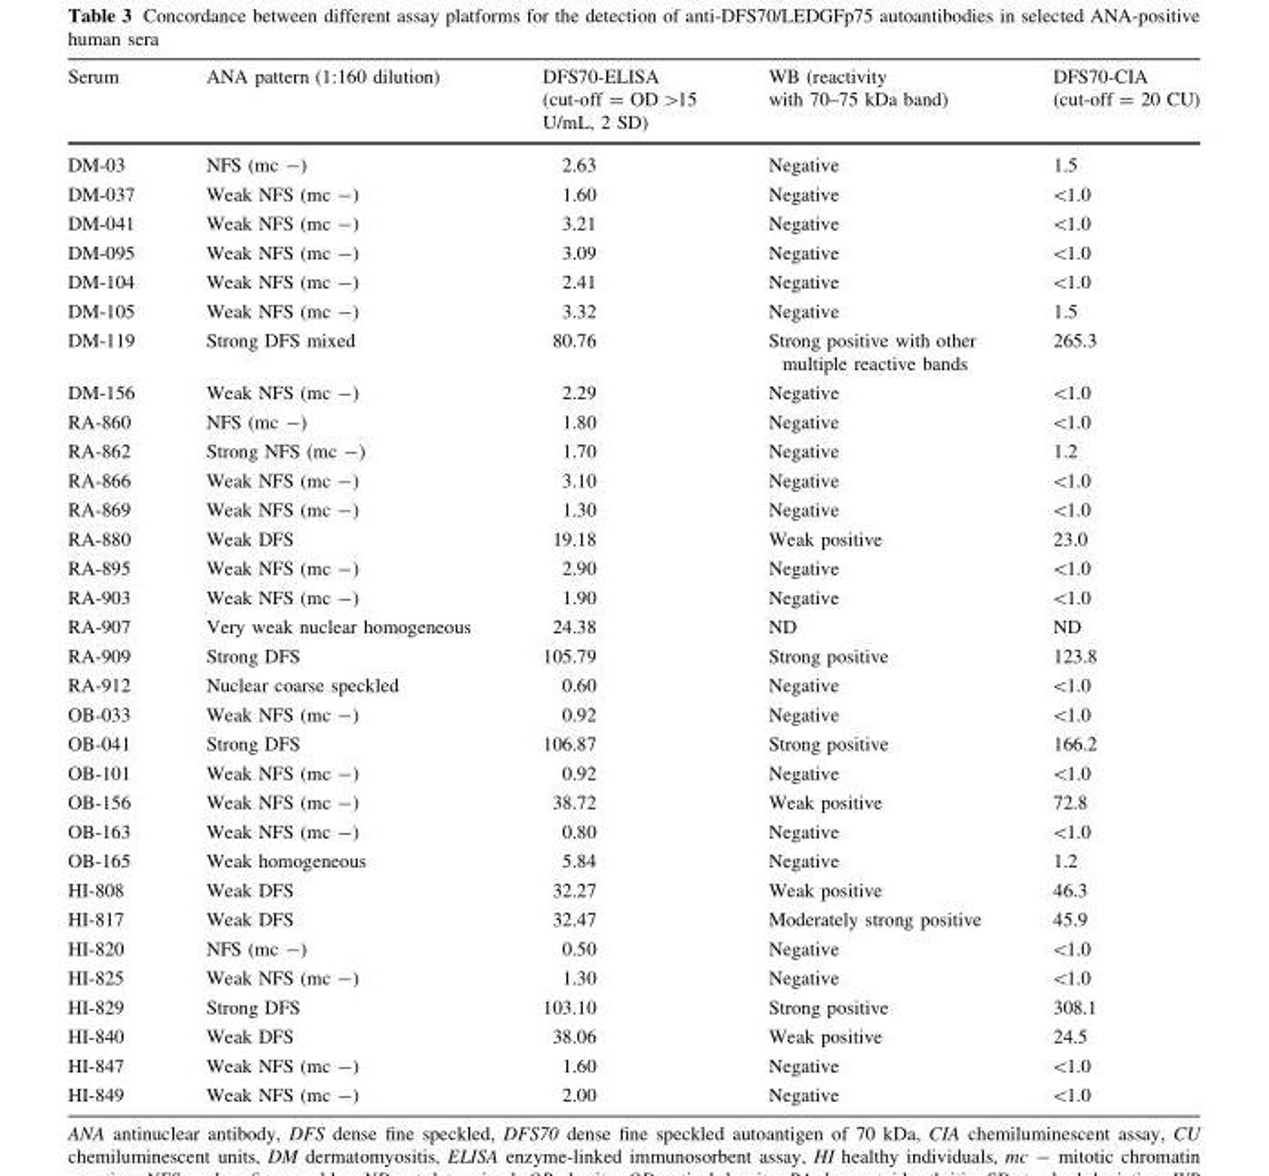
<table><thead><tr><td>Serum</td><td>ANA pattern (1:160 dilution)</td><td>DFS70-ELISA (cut-off = OD &gt;15 U/mL, 2 SD)</td><td>WB (reactivity with 70–75 kDa band)</td><td>DFS70-CIA (cut-off = 20 CU)</td></tr></thead><tbody><tr><td>DM-03</td><td>NFS (mc -)</td><td>2.63</td><td>Negative</td><td>1.5</td></tr><tr><td>DM-037</td><td>Weak NFS (mc -)</td><td>1.60</td><td>Negative</td><td>&lt;1.0</td></tr><tr><td>DM-041</td><td>Weak NFS (mc -)</td><td>3.21</td><td>Negative</td><td>&lt;1.0</td></tr><tr><td>DM-095</td><td>Weak NFS (mc -)</td><td>3.09</td><td>Negative</td><td>&lt;1.0</td></tr><tr><td>DM-104</td><td>Weak NFS (mc -)</td><td>2.41</td><td>Negative</td><td>&lt;1.0</td></tr><tr><td>DM-105</td><td>Weak NFS (mc -)</td><td>3.32</td><td>Negative</td><td>1.5</td></tr><tr><td>DM-119</td><td>Strong DFS mixed</td><td>80.76</td><td>Strong positive with other multiple reactive bands</td><td>265.3</td></tr><tr><td>DM-156</td><td>Weak NFS (mc -)</td><td>2.29</td><td>Negative</td><td>&lt;1.0</td></tr><tr><td>RA-860</td><td>NFS (mc -)</td><td>1.80</td><td>Negative</td><td>&lt;1.0</td></tr><tr><td>RA-862</td><td>Strong NFS (mc -)</td><td>1.70</td><td>Negative</td><td>1.2</td></tr><tr><td>RA-866</td><td>Weak NFS (mc -)</td><td>3.10</td><td>Negative</td><td>&lt;1.0</td></tr><tr><td>RA-869</td><td>Weak NFS (mc -)</td><td>1.30</td><td>Negative</td><td>&lt;1.0</td></tr><tr><td>RA-880</td><td>Weak DFS</td><td>19.18</td><td>Weak positive</td><td>23.0</td></tr><tr><td>RA-895</td><td>Weak NFS (mc -)</td><td>2.90</td><td>Negative</td><td>&lt;1.0</td></tr><tr><td>RA-903</td><td>Weak NFS (mc -)</td><td>1.90</td><td>Negative</td><td>&lt;1.0</td></tr><tr><td>RA-907</td><td>Very weak nuclear homogeneous</td><td>24.38</td><td>ND</td><td>ND</td></tr><tr><td>RA-909</td><td>Strong DFS</td><td>105.79</td><td>Strong positive</td><td>123.8</td></tr><tr><td>RA-912</td><td>Nuclear coarse speckled</td><td>0.60</td><td>Negative</td><td>&lt;1.0</td></tr><tr><td>OB-033</td><td>Weak NFS (mc -)</td><td>0.92</td><td>Negative</td><td>&lt;1.0</td></tr><tr><td>OB-041</td><td>Strong DFS</td><td>106.87</td><td>Strong positive</td><td>166.2</td></tr><tr><td>OB-101</td><td>Weak NFS (mc -)</td><td>0.92</td><td>Negative</td><td>&lt;1.0</td></tr><tr><td>OB-156</td><td>Weak NFS (mc -)</td><td>38.72</td><td>Weak positive</td><td>72.8</td></tr><tr><td>OB-163</td><td>Weak NFS (mc -)</td><td>0.80</td><td>Negative</td><td>&lt;1.0</td></tr><tr><td>OB-165</td><td>Weak homogeneous</td><td>5.84</td><td>Negative</td><td>1.2</td></tr><tr><td>HI-808</td><td>Weak DFS</td><td>32.27</td><td>Weak positive</td><td>46.3</td></tr><tr><td>HI-817</td><td>Weak DFS</td><td>32.47</td><td>Moderately strong positive</td><td>45.9</td></tr><tr><td>HI-820</td><td>NFS (mc -)</td><td>0.50</td><td>Negative</td><td>&lt;1.0</td></tr><tr><td>HI-825</td><td>Weak NFS (mc -)</td><td>1.30</td><td>Negative</td><td>&lt;1.0</td></tr><tr><td>HI-829</td><td>Strong DFS</td><td>103.10</td><td>Strong positive</td><td>308.1</td></tr><tr><td>HI-840</td><td>Weak DFS</td><td>38.06</td><td>Weak positive</td><td>24.5</td></tr><tr><td>HI-847</td><td>Weak NFS (mc -)</td><td>1.60</td><td>Negative</td><td>&lt;1.0</td></tr><tr><td>HI-849</td><td>Weak NFS (mc -)</td><td>2.00</td><td>Negative</td><td>&lt;1.0</td></tr></tbody></table>